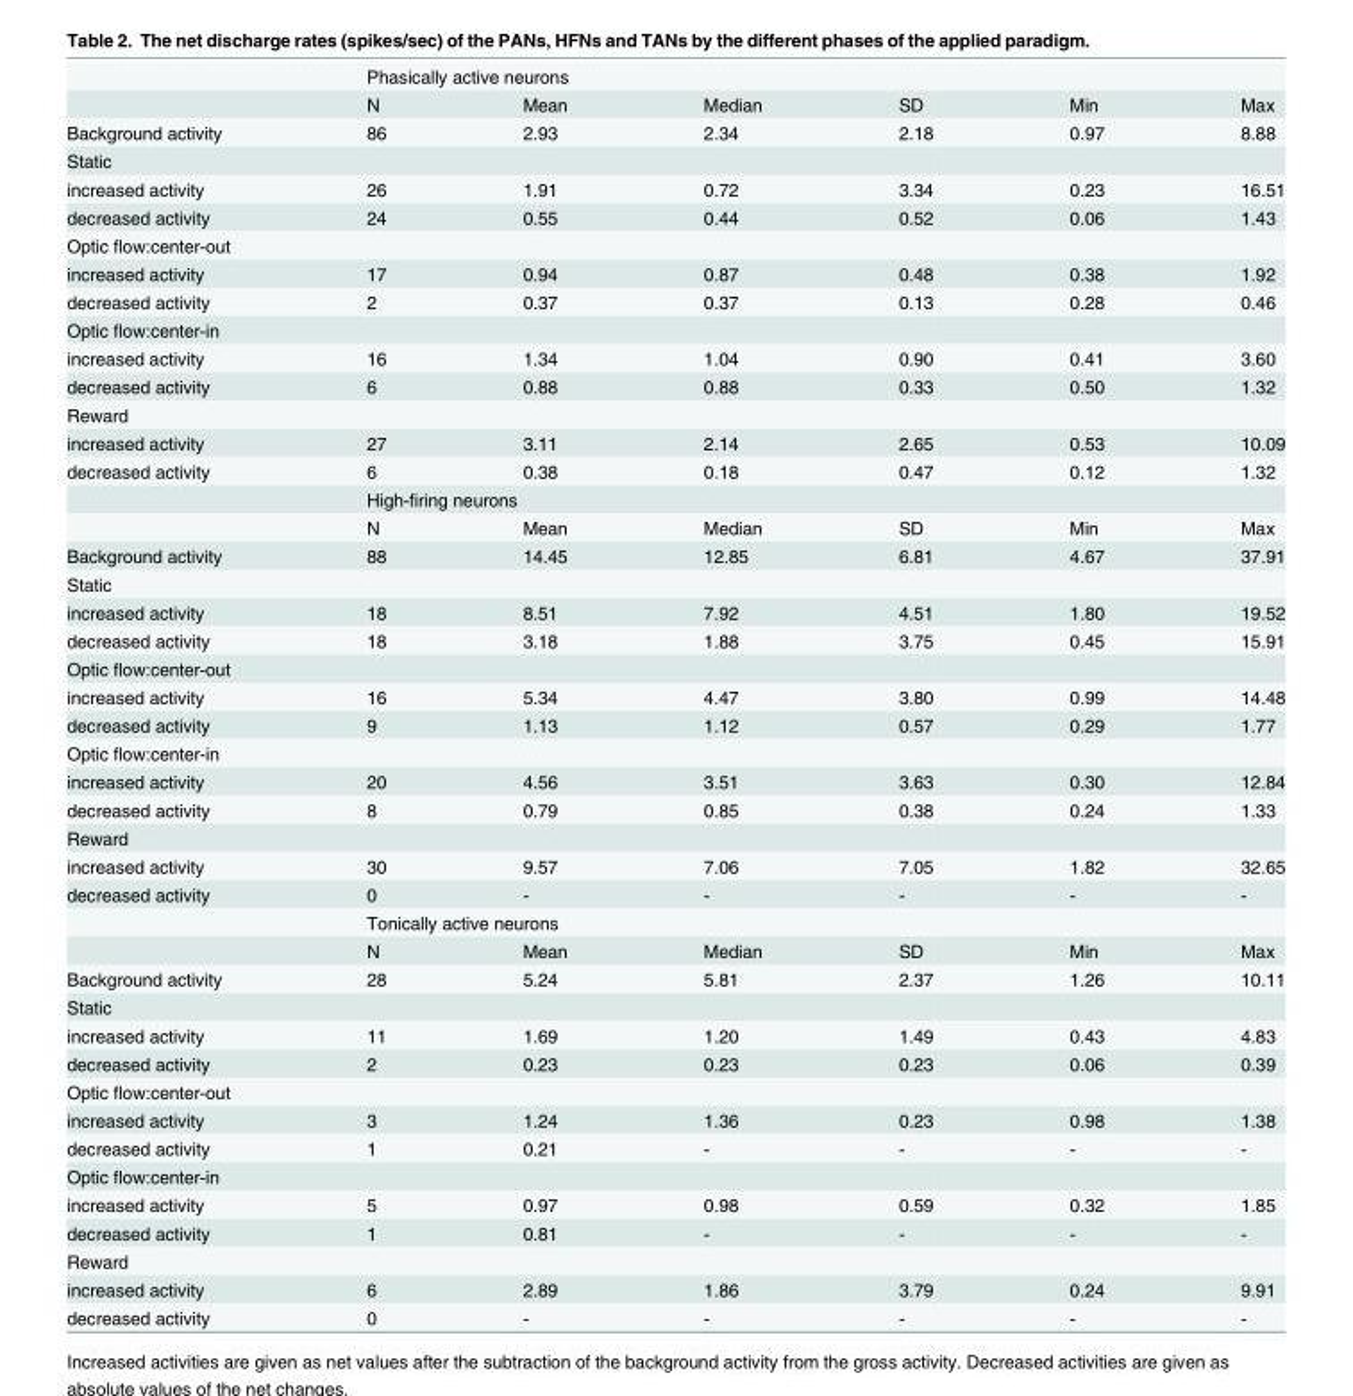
<table><thead><tr><td rowspan="2"></td><td colspan="6">Phasically active neurons</td></tr><tr><td>N</td><td>Mean</td><td>Median</td><td>SD</td><td>Min</td><td>Max</td></tr></thead><tbody><tr><td>Background activity</td><td>86</td><td>2.93</td><td>2.34</td><td>2.18</td><td>0.97</td><td>8.88</td></tr><tr><td colspan="7">Static</td></tr><tr><td>increased activity</td><td>26</td><td>1.91</td><td>0.72</td><td>3.34</td><td>0.23</td><td>16.51</td></tr><tr><td>decreased activity</td><td>24</td><td>0.55</td><td>0.44</td><td>0.52</td><td>0.06</td><td>1.43</td></tr><tr><td colspan="7">Optic flow:center-out</td></tr><tr><td>increased activity</td><td>17</td><td>0.94</td><td>0.87</td><td>0.48</td><td>0.38</td><td>1.92</td></tr><tr><td>decreased activity</td><td>2</td><td>0.37</td><td>0.37</td><td>0.13</td><td>0.28</td><td>0.46</td></tr><tr><td colspan="7">Optic flow:center-in</td></tr><tr><td>increased activity</td><td>16</td><td>1.34</td><td>1.04</td><td>0.90</td><td>0.41</td><td>3.60</td></tr><tr><td>decreased activity</td><td>6</td><td>0.88</td><td>0.88</td><td>0.33</td><td>0.50</td><td>1.32</td></tr><tr><td colspan="7">Reward</td></tr><tr><td>increased activity</td><td>27</td><td>3.11</td><td>2.14</td><td>2.65</td><td>0.53</td><td>10.09</td></tr><tr><td rowspan="3">decreased activity</td><td>6</td><td>0.38</td><td>0.18</td><td>0.47</td><td>0.12</td><td>1.32</td></tr><tr><td colspan="6">High-firing neurons</td></tr><tr><td>N</td><td>Mean</td><td>Median</td><td>SD</td><td>Min</td><td>Max</td></tr><tr><td>Background activity</td><td>88</td><td>14.45</td><td>12.85</td><td>6.81</td><td>4.67</td><td>37.91</td></tr><tr><td colspan="7">Static</td></tr><tr><td>increased activity</td><td>18</td><td>8.51</td><td>7.92</td><td>4.51</td><td>1.80</td><td>19.52</td></tr><tr><td>decreased activity</td><td>18</td><td>3.18</td><td>1.88</td><td>3.75</td><td>0.45</td><td>15.91</td></tr><tr><td colspan="7">Optic flow:center-out</td></tr><tr><td>increased activity</td><td>16</td><td>5.34</td><td>4.47</td><td>3.80</td><td>0.99</td><td>14.48</td></tr><tr><td>decreased activity</td><td>9</td><td>1.13</td><td>1.12</td><td>0.57</td><td>0.29</td><td>1.77</td></tr><tr><td colspan="7">Optic flow:center-in</td></tr><tr><td>increased activity</td><td>20</td><td>4.56</td><td>3.51</td><td>3.63</td><td>0.30</td><td>12.84</td></tr><tr><td>decreased activity</td><td>8</td><td>0.79</td><td>0.85</td><td>0.38</td><td>0.24</td><td>1.33</td></tr><tr><td colspan="7">Reward</td></tr><tr><td>increased activity</td><td>30</td><td>9.57</td><td>7.06</td><td>7.05</td><td>1.82</td><td>32.65</td></tr><tr><td rowspan="3">decreased activity</td><td>0</td><td>-</td><td>-</td><td>-</td><td>-</td><td>-</td></tr><tr><td colspan="6">Tonically active neurons</td></tr><tr><td>N</td><td>Mean</td><td>Median</td><td>SD</td><td>Min</td><td>Max</td></tr><tr><td>Background activity</td><td>28</td><td>5.24</td><td>5.81</td><td>2.37</td><td>1.26</td><td>10.11</td></tr><tr><td colspan="7">Static</td></tr><tr><td>increased activity</td><td>11</td><td>1.69</td><td>1.20</td><td>1.49</td><td>0.43</td><td>4.83</td></tr><tr><td>decreased activity</td><td>2</td><td>0.23</td><td>0.23</td><td>0.23</td><td>0.06</td><td>0.39</td></tr><tr><td colspan="7">Optic flow:center-out</td></tr><tr><td>increased activity</td><td>3</td><td>1.24</td><td>1.36</td><td>0.23</td><td>0.98</td><td>1.38</td></tr><tr><td>decreased activity</td><td>1</td><td>0.21</td><td>-</td><td>-</td><td>-</td><td>-</td></tr><tr><td colspan="7">Optic flow:center-in</td></tr><tr><td>increased activity</td><td>5</td><td>0.97</td><td>0.98</td><td>0.59</td><td>0.32</td><td>1.85</td></tr><tr><td>decreased activity</td><td>1</td><td>0.81</td><td>-</td><td>-</td><td>-</td><td>-</td></tr><tr><td colspan="7">Reward</td></tr><tr><td>increased activity</td><td>6</td><td>2.89</td><td>1.86</td><td>3.79</td><td>0.24</td><td>9.91</td></tr><tr><td>decreased activity</td><td>0</td><td>-</td><td>-</td><td>-</td><td>-</td><td>-</td></tr></tbody></table>